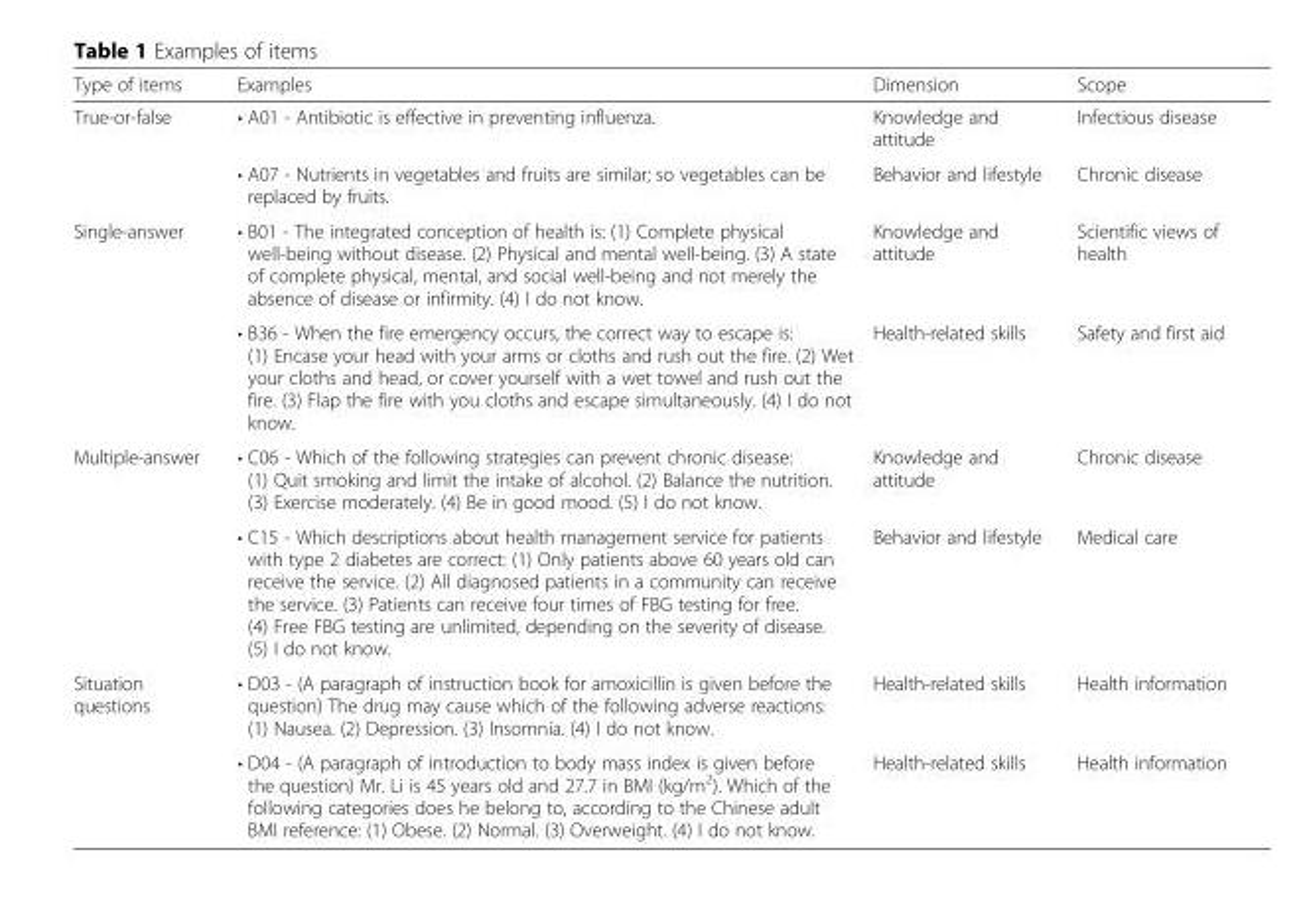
<table><thead><tr><td>Type of items</td><td>Examples</td><td>Dimension</td><td>Scope</td></tr></thead><tbody><tr><td rowspan="2">True-or-false</td><td>• A01 - Antibiotic is effective in preventing influenza.</td><td>Knowledge and attitude</td><td>Infectious disease</td></tr><tr><td>• A07 - Nutrients in vegetables and fruits are similar; so vegetables can be replaced by fruits.</td><td>Behavior and lifestyle</td><td>Chronic disease</td></tr><tr><td rowspan="2">Single-answer</td><td>• B01 - The integrated conception of health is: (1) Complete physical well-being without disease. (2) Physical and mental well-being. (3) A state of complete physical, mental, and social well-being and not merely the absence of disease or infirmity. (4) I do not know.</td><td>Knowledge and attitude</td><td>Scientific views of health</td></tr><tr><td>• B36 - When the fire emergency occurs, the correct way to escape is: (1) Encase your head with your arms or cloths and rush out the fire. (2) Wet your cloths and head, or cover yourself with a wet towel and rush out the fire. (3) Flap the fire with you cloths and escape simultaneously. (4) I do not know.</td><td>Health-related skills</td><td>Safety and first aid</td></tr><tr><td rowspan="2">Multiple-answer</td><td>• C06 - Which of the following strategies can prevent chronic disease: (1) Quit smoking and limit the intake of alcohol. (2) Balance the nutrition. (3) Exercise moderately. (4) Be in good mood. (5) I do not know.</td><td>Knowledge and attitude</td><td>Chronic disease</td></tr><tr><td>• C15 - Which descriptions about health management service for patients with type 2 diabetes are correct: (1) Only patients above 60 years old can receive the service. (2) All diagnosed patients in a community can receive the service. (3) Patients can receive four times of FBG testing for free. (4) Free FBG testing are unlimited, depending on the severity of disease. (5) I do not know.</td><td>Behavior and lifestyle</td><td>Medical care</td></tr><tr><td rowspan="2">Situation questions</td><td>• D03 - (A paragraph of instruction book for amoxicillin is given before the question) The drug may cause which of the following adverse reactions: (1) Nausea. (2) Depression. (3) Insomnia. (4) I do not know.</td><td>Health-related skills</td><td>Health information</td></tr><tr><td>• D04 - (A paragraph of introduction to body mass index is given before the question) Mr. Li is 45 years old and 27.7 in BMI (kg/m<sup>2</sup>). Which of the following categories does he belong to, according to the Chinese adult BMI reference: (1) Obese. (2) Normal. (3) Overweight. (4) I do not know.</td><td>Health-related skills</td><td>Health information</td></tr></tbody></table>